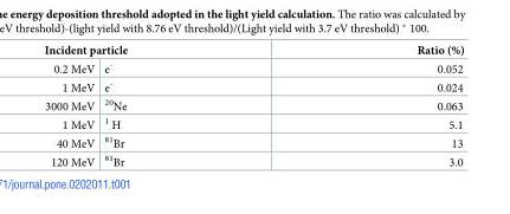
<table><thead><tr><td colspan="2">Incident particle</td><td rowspan="2">Ratio (%) 0.052</td></tr><tr><td>0.2 MeV</td><td>e<sup>-</sup></td></tr></thead><tbody><tr><td>1 MeV</td><td>e<sup>-</sup></td><td>0.024</td></tr><tr><td>3000 MeV</td><td><sup>20</sup>Ne</td><td>0.063</td></tr><tr><td>1 MeV</td><td><sup>1</sup> H</td><td>5.1</td></tr><tr><td>40 MeV</td><td><sup>81</sup>Br</td><td>13</td></tr><tr><td>120 MeV</td><td><sup>81</sup>Br</td><td>3.0</td></tr></tbody></table>